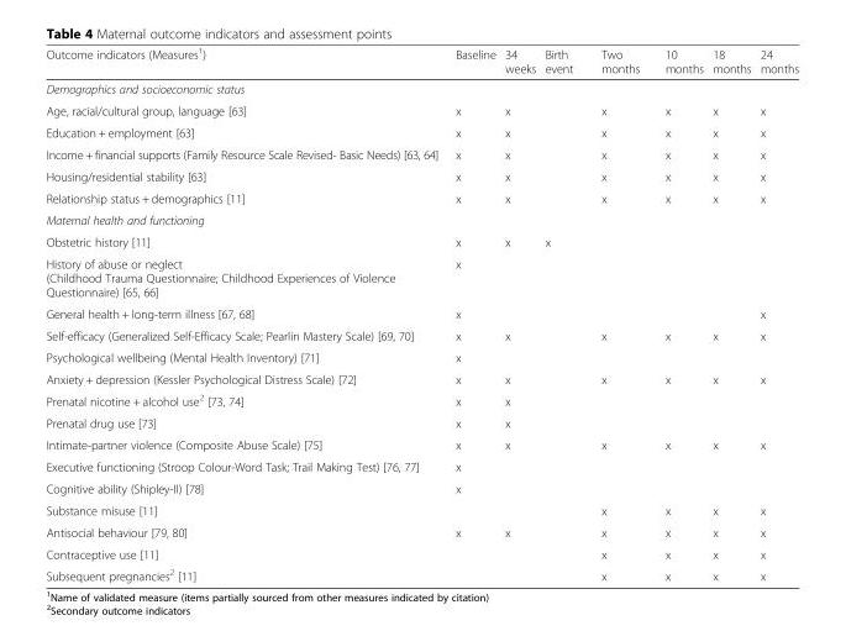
<table><thead><tr><td>Outcome indicators (Measures<sup>1</sup>)</td><td>Baseline</td><td>34 weeks</td><td>Birth event</td><td>Two months</td><td>10 months</td><td>18 months</td><td>24 months</td></tr></thead><tbody><tr><td colspan="8">Demographics and socioeconomic status</td></tr><tr><td>Age, racial/cultural group, language [63]</td><td>x</td><td>x</td><td></td><td>x</td><td>x</td><td>x</td><td>x</td></tr><tr><td>Education + employment [63]</td><td>x</td><td>x</td><td></td><td>x</td><td>x</td><td>x</td><td>x</td></tr><tr><td>Income + financial supports (Family Resource Scale Revised- Basic Needs) [63, 64]</td><td>x</td><td>x</td><td></td><td>x</td><td>x</td><td>x</td><td>x</td></tr><tr><td>Housing/residential stability [63]</td><td>x</td><td>x</td><td></td><td>x</td><td>x</td><td>x</td><td>x</td></tr><tr><td>Relationship status + demographics [11]</td><td>x</td><td>x</td><td></td><td>x</td><td>x</td><td>x</td><td>x</td></tr><tr><td colspan="8">Maternal health and functioning</td></tr><tr><td>Obstetric history [11]</td><td>x</td><td>x</td><td>x</td><td></td><td></td><td></td><td></td></tr><tr><td>History of abuse or neglect (Childhood Trauma Questionnaire; Childhood Experiences of Violence Questionnaire) [65, 66]</td><td>x</td><td></td><td></td><td></td><td></td><td></td><td></td></tr><tr><td>General health + long-term illness [67, 68]</td><td>x</td><td></td><td></td><td></td><td></td><td></td><td>x</td></tr><tr><td>Self-efficacy (Generalized Self-Efficacy Scale; Pearlin Mastery Scale) [69, 70]</td><td>x</td><td>x</td><td></td><td>x</td><td>x</td><td>x</td><td>x</td></tr><tr><td>Psychological wellbeing (Mental Health Inventory) [71]</td><td>x</td><td></td><td></td><td></td><td></td><td></td><td></td></tr><tr><td>Anxiety + depression (Kessler Psychological Distress Scale) [72]</td><td>x</td><td>x</td><td></td><td>x</td><td>x</td><td>x</td><td>x</td></tr><tr><td>Prenatal nicotine + alcohol use<sup>2</sup> [73, 74]</td><td>x</td><td>x</td><td></td><td></td><td></td><td></td><td></td></tr><tr><td>Prenatal drug use [73]</td><td>x</td><td>x</td><td></td><td></td><td></td><td></td><td></td></tr><tr><td>Intimate-partner violence (Composite Abuse Scale) [75]</td><td>x</td><td>x</td><td></td><td>x</td><td>x</td><td>x</td><td>x</td></tr><tr><td>Executive functioning (Stroop Colour-Word Task; Trail Making Test) [76, 77]</td><td>x</td><td></td><td></td><td></td><td></td><td></td><td></td></tr><tr><td>Cognitive ability (Shipley-II) [78]</td><td>x</td><td></td><td></td><td></td><td></td><td></td><td></td></tr><tr><td>Substance misuse [11]</td><td></td><td></td><td></td><td>x</td><td>x</td><td>x</td><td>x</td></tr><tr><td>Antisocial behaviour [79, 80]</td><td>x</td><td>x</td><td></td><td>x</td><td>x</td><td>x</td><td>x</td></tr><tr><td>Contraceptive use [11]</td><td></td><td></td><td></td><td>x</td><td>x</td><td>x</td><td>x</td></tr><tr><td>Subsequent pregnancies<sup>2</sup> [11]</td><td></td><td></td><td></td><td>x</td><td>x</td><td>x</td><td>x</td></tr></tbody></table>